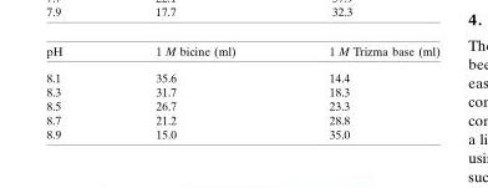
<table><thead><tr><td>pH</td><td>1 M bicine (ml)</td><td>1 M Trizma base (ml)</td></tr></thead><tbody><tr><td>8.1</td><td>35.6</td><td>14.4</td></tr><tr><td>8.3</td><td>31.7</td><td>18.3</td></tr><tr><td>8.5</td><td>26.7</td><td>23.3</td></tr><tr><td>8.7</td><td>21.2</td><td>28.8</td></tr><tr><td>8.9</td><td>15.0</td><td>35.0</td></tr></tbody></table>